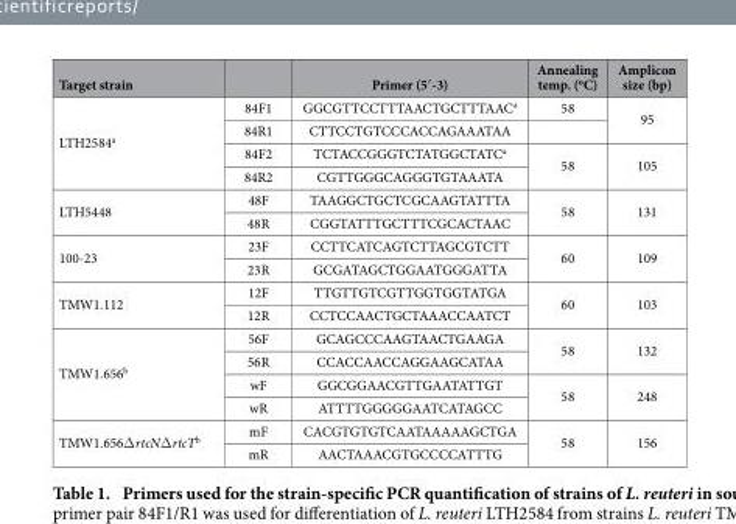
<table><thead><tr><td>Target strain</td><td></td><td>Primer (5′-3)</td><td>Annealing temp. (<sup>o</sup>C)</td><td>Amplicon size (bp)</td></tr></thead><tbody><tr><td rowspan="4">LTH2584<sup>a</sup></td><td>84F1</td><td>GGCGTTCCTTTAACTGCTTTAAC<sup>a</sup></td><td>58</td><td rowspan="2">95</td></tr><tr><td>84R1</td><td>CTTCCTGTCCCACCAGAAATAA</td><td></td></tr><tr><td>84F2</td><td>TCTACCGGGTCTATGGCTATC<sup>a</sup></td><td rowspan="2">58</td><td rowspan="2">105</td></tr><tr><td>84R2</td><td>CGTTGGGCAGGGTGTAAATA</td></tr><tr><td rowspan="2">LTH5448</td><td>48F</td><td>TAAGGCTGCTCGCAAGTATTTA</td><td rowspan="2">58</td><td rowspan="2">131</td></tr><tr><td>48R</td><td>CGGTATTTGCTTTCGCACTAAC</td></tr><tr><td rowspan="2">100-23</td><td>23F</td><td>CCTTCATCAGTCTTAGCGTCTT</td><td rowspan="2">60</td><td rowspan="2">109</td></tr><tr><td>23R</td><td>GCGATAGCTGGAATGGGATTA</td></tr><tr><td rowspan="2">TMW1.112</td><td>12F</td><td>TTGTTGTCGTTGGTGGTATGA</td><td rowspan="2">60</td><td rowspan="2">103</td></tr><tr><td>12R</td><td>CCTCCAACTGCTAAACCAATCT</td></tr><tr><td rowspan="4">TMW1.656<sup>b</sup></td><td>56F</td><td>GCAGCCCAAGTAACTGAAGA</td><td rowspan="2">58</td><td rowspan="2">132</td></tr><tr><td>56R</td><td>CCACCAACCAGGAAGCATAA</td></tr><tr><td>wF</td><td>GGCGGAACGTTGAATATTGT</td><td rowspan="2">58</td><td rowspan="2">248</td></tr><tr><td>wR</td><td>ATTTTGGGGGAATCATAGCC</td></tr><tr><td rowspan="2">TMW1.656Δ rtcNΔ rtcT<sup>b</sup></td><td>mF</td><td>CACGTGTGTCAATAAAAAGCTGA</td><td rowspan="2">58</td><td rowspan="2">156</td></tr><tr><td>mR</td><td>AACTAAACGTGCCCCATTTG</td></tr></tbody></table>